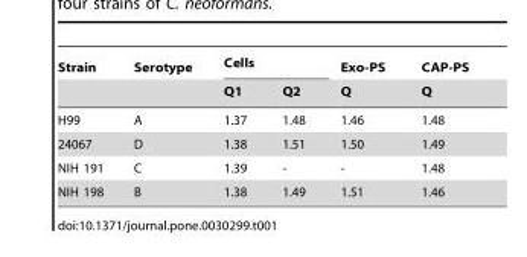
<table><thead><tr><td rowspan="2">Strain</td><td rowspan="2">Serotype</td><td colspan="2">Cells</td><td rowspan="2">Exo-PS Q</td><td rowspan="2">CAP-PS Q</td></tr><tr><td>Q1</td><td>Q2</td></tr></thead><tbody><tr><td>H99</td><td>A</td><td>1.37</td><td>1.48</td><td>1.46</td><td>1.48</td></tr><tr><td>24067</td><td>D</td><td>1.38</td><td>1.51</td><td>1.50</td><td>1.49</td></tr><tr><td>NIH 191</td><td>C</td><td>1.39</td><td>-</td><td>-</td><td>1.48</td></tr><tr><td>NIH 198</td><td>B</td><td>1.38</td><td>1.49</td><td>1.51</td><td>1.46</td></tr></tbody></table>